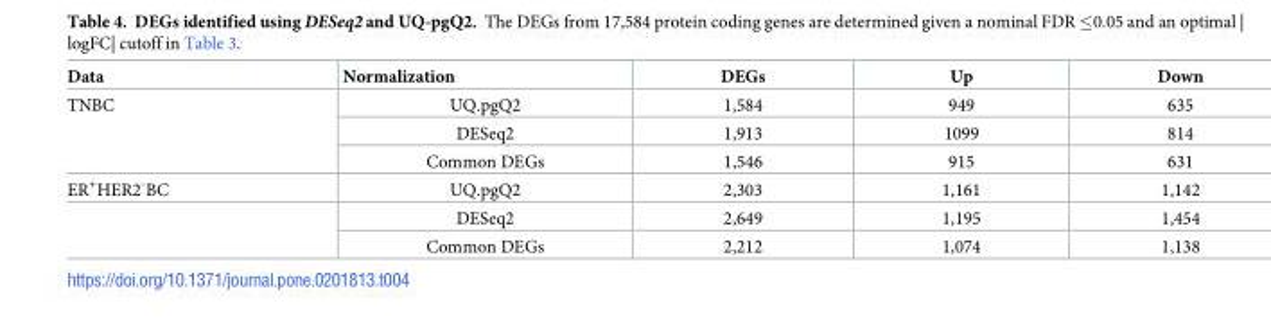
<table><thead><tr><td>Data</td><td>Normalization</td><td>DEGs</td><td>Up</td><td>Down</td></tr></thead><tbody><tr><td rowspan="3">TNBC</td><td>UQ.pgQ2</td><td>1,584</td><td>949</td><td>635</td></tr><tr><td>DESeq2</td><td>1,913</td><td>1099</td><td>814</td></tr><tr><td>Common DEGs</td><td>1,546</td><td>915</td><td>631</td></tr><tr><td rowspan="3">ER<sup>+</sup>HER2<sup>-</sup>BC</td><td>UQ.pgQ2</td><td>2,303</td><td>1,161</td><td>1,142</td></tr><tr><td>DESeq2</td><td>2,649</td><td>1,195</td><td>1,454</td></tr><tr><td>Common DEGs</td><td>2,212</td><td>1,074</td><td>1,138</td></tr></tbody></table>